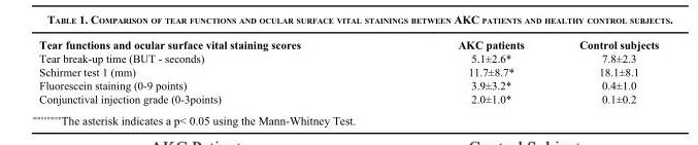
<table><thead><tr><td>Tear functions and ocular surface vital staining scores</td><td>AKC patients</td><td>Control subjects</td></tr></thead><tbody><tr><td>Tear break-up time (BUT - seconds)</td><td>5.1±2.6*</td><td>7.8±2.3</td></tr><tr><td>Schirmer test 1 (mm)</td><td>11.7±8.7*</td><td>18.1±8.1</td></tr><tr><td>Fluorescein staining (0-9 points)</td><td>3.9±3.2*</td><td>0.4±1.0</td></tr><tr><td>Conjunctival injection grade (0-3points)</td><td>2.0±1.0*</td><td>0.1±0.2</td></tr></tbody></table>